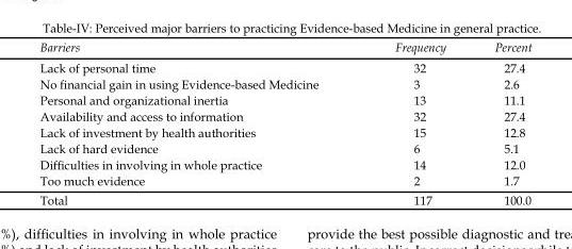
<table><thead><tr><td>Barriers</td><td>Frequency</td><td>Percent</td></tr></thead><tbody><tr><td>Lack of personal time</td><td>32</td><td>27.4</td></tr><tr><td>No financial gain in using Evidence-based Medicine</td><td>3</td><td>2.6</td></tr><tr><td>Personal and organizational inertia</td><td>13</td><td>11.1</td></tr><tr><td>Availability and access to information</td><td>32</td><td>27.4</td></tr><tr><td>Lack of investment by health authorities</td><td>15</td><td>12.8</td></tr><tr><td>Lack of hard evidence</td><td>6</td><td>5.1</td></tr><tr><td>Difficulties in involving in whole practice</td><td>14</td><td>12.0</td></tr><tr><td>Too much evidence</td><td>2</td><td>1.7</td></tr><tr><td>Total</td><td>117</td><td>100.0</td></tr></tbody></table>